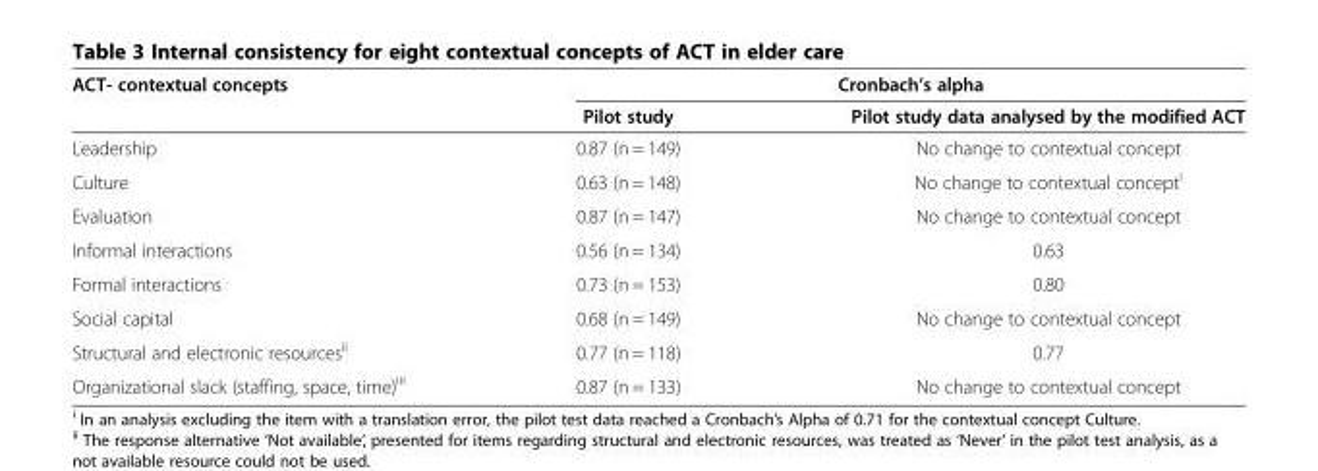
<table><thead><tr><td rowspan="2">ACT- contextual concepts</td><td colspan="2">Cronbach’s alpha</td></tr><tr><td>Pilot study</td><td>Pilot study data analysed by the modified ACT</td></tr></thead><tbody><tr><td>Leadership</td><td>0.87 (n = 149)</td><td>No change to contextual concept</td></tr><tr><td>Culture</td><td>0.63 (n = 148)</td><td>No change to contextual concept<sup>i</sup></td></tr><tr><td>Evaluation</td><td>0.87 (n = 147)</td><td>No change to contextual concept</td></tr><tr><td>Informal interactions</td><td>0.56 (n = 134)</td><td>0.63</td></tr><tr><td>Formal interactions</td><td>0.73 (n = 153)</td><td>0.80</td></tr><tr><td>Social capital</td><td>0.68 (n = 149)</td><td>No change to contextual concept</td></tr><tr><td>Structural and electronic resources<sup>ii</sup></td><td>0.77 (n = 118)</td><td>0.77</td></tr><tr><td>Organizational slack (staffing, space, time)<sup>iii</sup></td><td>0.87 (n = 133)</td><td>No change to contextual concept</td></tr></tbody></table>